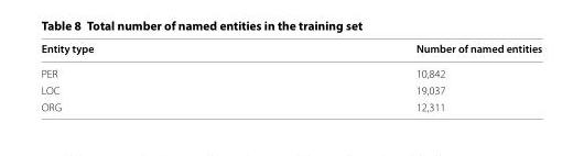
<table><thead><tr><td>Entity type</td><td>Number of named entities</td></tr></thead><tbody><tr><td>PER</td><td>10,842</td></tr><tr><td>LOC</td><td>19,037</td></tr><tr><td>ORG</td><td>12,311</td></tr></tbody></table>